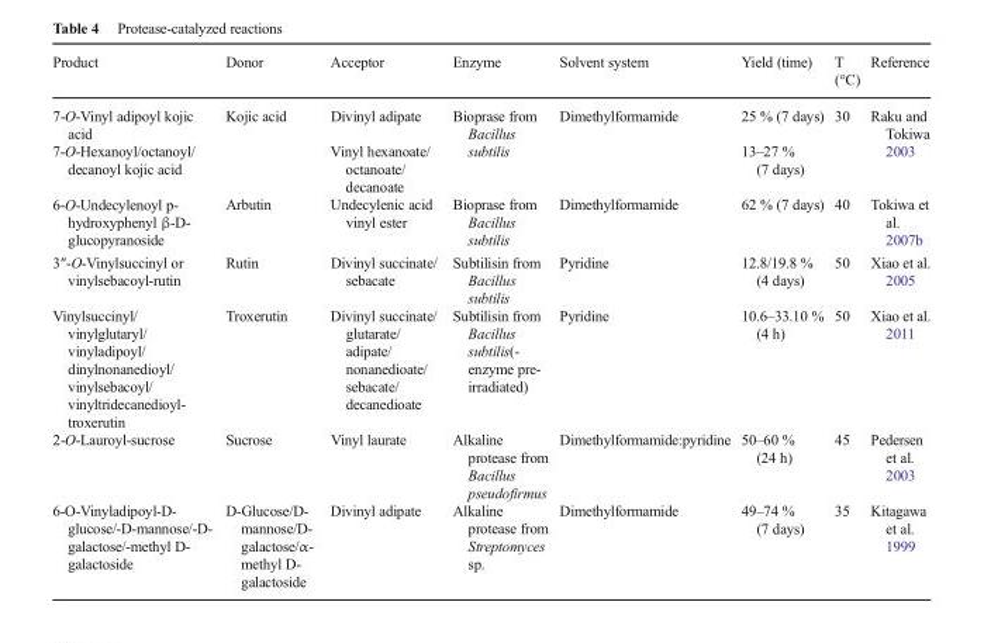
<table><thead><tr><td>Product</td><td>Donor</td><td>Acceptor</td><td>Enzyme</td><td>Solvent system</td><td>Yield (time)</td><td>T (°C)</td><td>Reference</td></tr></thead><tbody><tr><td>7-O-Vinyl adipoyl kojic acid</td><td rowspan="2">Kojic acid</td><td>Divinyl adipate</td><td rowspan="2">Bioprase from Bacillus subtilis</td><td rowspan="2">Dimethylformamide</td><td>25 % (7 days)</td><td rowspan="2">30</td><td rowspan="2">Raku and Tokiwa 2003</td></tr><tr><td>7-O-Hexanoyl/octanoyl/ decanoyl kojic acid</td><td>Vinyl hexanoate/ octanoate/ decanoate</td><td>13–27 % (7 days)</td></tr><tr><td>6-O-Undecylenoyl p- hydroxyphenyl β-D- glucopyranoside</td><td>Arbutin</td><td>Undecylenic acid vinyl ester</td><td>Bioprase from Bacillus subtilis</td><td>Dimethylformamide</td><td>62 % (7 days)</td><td>40</td><td>Tokiwa et al. 2007b</td></tr><tr><td>3″-O-Vinylsuccinyl or vinylsebacoyl-rutin</td><td>Rutin</td><td>Divinyl succinate/ sebacate</td><td>Subtilisin from Bacillus subtilis</td><td>Pyridine</td><td>12.8/19.8 % (4 days)</td><td>50</td><td>Xiao et al. 2005</td></tr><tr><td>Vinylsuccinyl/ vinylglutaryl/ vinyladipoyl/ dinylnonanedioyl/ vinylsebacoyl/ vinyltridecanedioyl- troxerutin</td><td>Troxerutin</td><td>Divinyl succinate/ glutarate/ adipate/ nonanedioate/ sebacate/ decanedioate</td><td>Subtilisin from Bacillus subtilis(- enzyme pre- irradiated)</td><td>Pyridine</td><td>10.6–33.10 % (4 h)</td><td>50</td><td>Xiao et al. 2011</td></tr><tr><td>2-O-Lauroyl-sucrose</td><td>Sucrose</td><td>Vinyl laurate</td><td>Alkaline protease from Bacillus pseudofirmus</td><td>Dimethylformamide:pyridine</td><td>50–60 % (24 h)</td><td>45</td><td>Pedersen et al. 2003</td></tr><tr><td>6-O-Vinyladipoyl-D- glucose/-D-mannose/-D- galactose/-methyl D- galactoside</td><td>D-Glucose/D- mannose/D- galactose/α- methyl D- galactoside</td><td>Divinyl adipate</td><td>Alkaline protease from Streptomyces sp.</td><td>Dimethylformamide</td><td>49–74 % (7 days)</td><td>35</td><td>Kitagawa et al. 1999</td></tr></tbody></table>